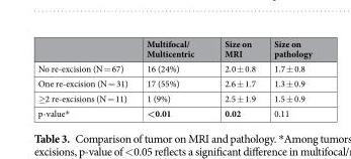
<table><thead><tr><td></td><td>Multifocal/ Multicentric</td><td>Size on MRI</td><td>Size on pathology</td></tr></thead><tbody><tr><td>No re-excision (N = 67)</td><td>16 (24%)</td><td>2.0 ± 0.8</td><td>1.7 ± 0.8</td></tr><tr><td>One re-excision (N = 31)</td><td>17 (55%)</td><td>2.6 ± 1.7</td><td>1.3 ± 0.9</td></tr><tr><td>≥2 re-excisions (N = 11)</td><td>1 (9%)</td><td>2.5 ± 1.9</td><td>1.5 ± 0.9</td></tr><tr><td>p-value*</td><td>&lt;0.01</td><td>0.02</td><td>0.11</td></tr></tbody></table>